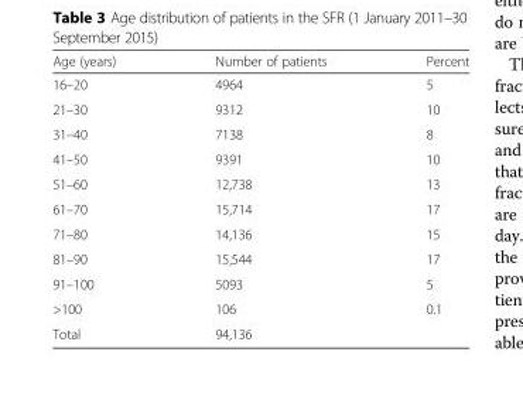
<table><thead><tr><td>Age (years)</td><td>Number of patients</td><td>Percent</td></tr></thead><tbody><tr><td>16–20</td><td>4964</td><td>5</td></tr><tr><td>21–30</td><td>9312</td><td>10</td></tr><tr><td>31–40</td><td>7138</td><td>8</td></tr><tr><td>41–50</td><td>9391</td><td>10</td></tr><tr><td>51–60</td><td>12,738</td><td>13</td></tr><tr><td>61–70</td><td>15,714</td><td>17</td></tr><tr><td>71–80</td><td>14,136</td><td>15</td></tr><tr><td>81–90</td><td>15,544</td><td>17</td></tr><tr><td>91–100</td><td>5093</td><td>5</td></tr><tr><td>&gt;100</td><td>106</td><td>0.1</td></tr><tr><td>Total</td><td>94,136</td><td></td></tr></tbody></table>